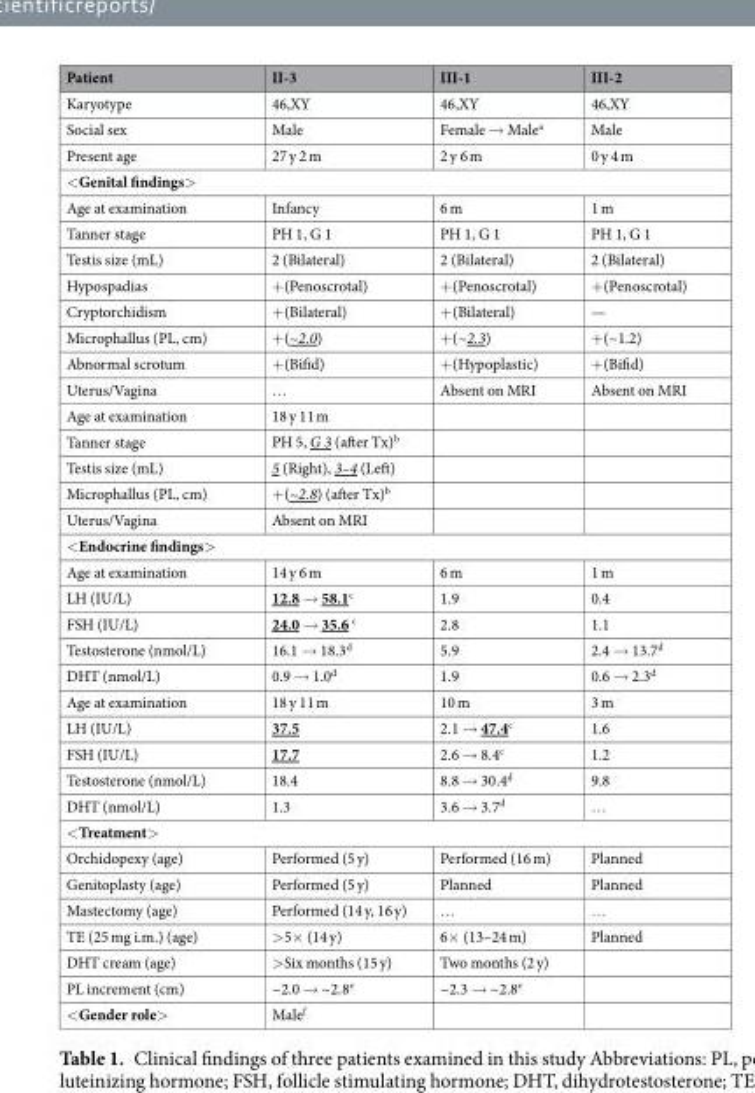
<table><thead><tr><td>Patient</td><td>II-3</td><td>III-1</td><td>III-2</td></tr></thead><tbody><tr><td>Karyotype</td><td>46,XY</td><td>46,XY</td><td>46,XY</td></tr><tr><td>Social sex</td><td>Male</td><td>Female → Male<sup>a</sup></td><td>Male</td></tr><tr><td>Present age</td><td>27 y 2 m</td><td>2 y 6 m</td><td>0 y 4 m</td></tr><tr><td colspan="4">&lt;Genital findings&gt;</td></tr><tr><td>Age at examination</td><td>Infancy</td><td>6 m</td><td>1 m</td></tr><tr><td>Tanner stage</td><td>PH 1, G 1</td><td>PH 1, G 1</td><td>PH 1, G 1</td></tr><tr><td>Testis size (mL)</td><td>2 (Bilateral)</td><td>2 (Bilateral)</td><td>2 (Bilateral)</td></tr><tr><td>Hypospadias</td><td>+(Penoscrotal)</td><td>+(Penoscrotal)</td><td>+(Penoscrotal)</td></tr><tr><td>Cryptorchidism</td><td>+(Bilateral)</td><td>+(Bilateral)</td><td>—</td></tr><tr><td>Microphallus (PL, cm)</td><td>+(~2.0)</td><td>+(~2.3)</td><td>+(~1.2)</td></tr><tr><td>Abnormal scrotum</td><td>+(Bifid)</td><td>+(Hypoplastic)</td><td>+(Bifid)</td></tr><tr><td>Uterus/Vagina</td><td>…</td><td>Absent on MRI</td><td>Absent on MRI</td></tr><tr><td>Age at examination</td><td>18 y 11 m</td><td></td><td></td></tr><tr><td>Tanner stage</td><td>PH 5, G 3 (after Tx)<sup>b</sup></td><td></td><td></td></tr><tr><td>Testis size (mL)</td><td>5 (Right), 3–4 (Left)</td><td></td><td></td></tr><tr><td>Microphallus (PL, cm)</td><td>+(~2.8) (after Tx)<sup>b</sup></td><td></td><td></td></tr><tr><td>Uterus/Vagina</td><td>Absent on MRI</td><td></td><td></td></tr><tr><td colspan="4">&lt;Endocrine findings&gt;</td></tr><tr><td>Age at examination</td><td>14 y 6 m</td><td>6 m</td><td>1 m</td></tr><tr><td>LH (IU/L)</td><td>12.8 → 58.1<sup>c</sup></td><td>1.9</td><td>0.4</td></tr><tr><td>FSH (IU/L)</td><td>24.0 → 35.6 <sup>c</sup></td><td>2.8</td><td>1.1</td></tr><tr><td>Testosterone (nmol/L)</td><td>16.1 → 18.3<sup>d</sup></td><td>5.9</td><td>2.4 → 13.7<sup>d</sup></td></tr><tr><td>DHT (nmol/L)</td><td>0.9 → 1.0<sup>d</sup></td><td>1.9</td><td>0.6 → 2.3<sup>d</sup></td></tr><tr><td>Age at examination</td><td>18 y 11 m</td><td>10 m</td><td>3 m</td></tr><tr><td>LH (IU/L)</td><td>37.5</td><td>2.1 → 47.4<sup>c</sup></td><td>1.6</td></tr><tr><td>FSH (IU/L)</td><td>17.7</td><td>2.6 → 8.4<sup>c</sup></td><td>1.2</td></tr><tr><td>Testosterone (nmol/L)</td><td>18.4</td><td>8.8 → 30.4<sup>d</sup></td><td>9.8</td></tr><tr><td>DHT (nmol/L)</td><td>1.3</td><td>3.6 → 3.7<sup>d</sup></td><td>…</td></tr><tr><td colspan="4">&lt;Treatment&gt;</td></tr><tr><td>Orchidopexy (age)</td><td>Performed (5 y)</td><td>Performed (16 m)</td><td>Planned</td></tr><tr><td>Genitoplasty (age)</td><td>Performed (5 y)</td><td>Planned</td><td>Planned</td></tr><tr><td>Mastectomy (age)</td><td>Performed (14 y, 16 y)</td><td>…</td><td>…</td></tr><tr><td>TE (25 mg i.m.) (age)</td><td>&gt;5× (14 y)</td><td>6× (13–24 m)</td><td>Planned</td></tr><tr><td>DHT cream (age)</td><td>&gt;Six months (15 y)</td><td>Two months (2 y)</td><td></td></tr><tr><td>PL increment (cm)</td><td>~2.0 → ~2.8<sup>e</sup></td><td>~2.3 → ~2.8<sup>e</sup></td><td></td></tr><tr><td>&lt;Gender role&gt;</td><td>Male<sup>f</sup></td><td></td><td></td></tr></tbody></table>